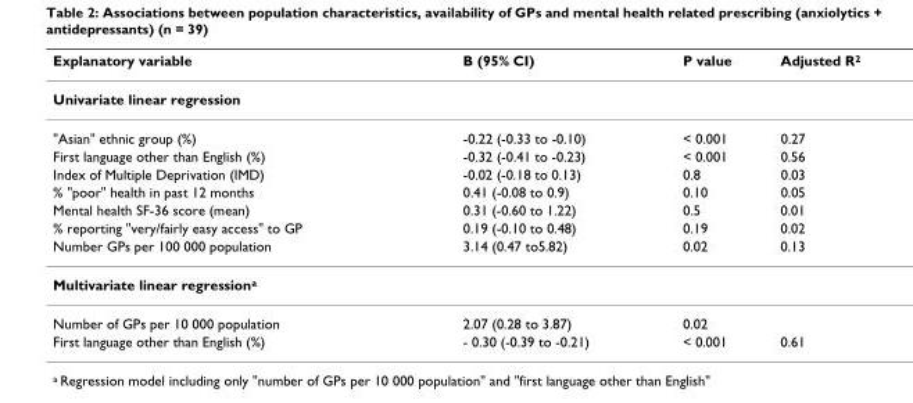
<table><thead><tr><td>Explanatory variable</td><td>B (95% CI)</td><td>P value</td><td>Adjusted R<sup>2</sup></td></tr></thead><tbody><tr><td colspan="4">Univariate linear regression</td></tr><tr><td>&quot;Asian&quot; ethnic group (%)</td><td>-0.22 (-0.33 to -0.10)</td><td>&lt; 0.001</td><td>0.27</td></tr><tr><td>First language other than English (%)</td><td>-0.32 (-0.41 to -0.23)</td><td>&lt; 0.001</td><td>0.56</td></tr><tr><td>Index of Multiple Deprivation (IMD)</td><td>-0.02 (-0.18 to 0.13)</td><td>0.8</td><td>0.03</td></tr><tr><td>% &quot;poor&quot; health in past 12 months</td><td>0.41 (-0.08 to 0.9)</td><td>0.10</td><td>0.05</td></tr><tr><td>Mental health SF-36 score (mean)</td><td>0.31 (-0.60 to 1.22)</td><td>0.5</td><td>0.01</td></tr><tr><td>% reporting &quot;very/fairly easy access&quot; to GP</td><td>0.19 (-0.10 to 0.48)</td><td>0.19</td><td>0.02</td></tr><tr><td>Number GPs per 100 000 population</td><td>3.14 (0.47 to5.82)</td><td>0.02</td><td>0.13</td></tr><tr><td colspan="4">Multivariate linear regression<sup>a</sup></td></tr><tr><td>Number of GPs per 10 000 population</td><td>2.07 (0.28 to 3.87)</td><td>0.02</td><td></td></tr><tr><td>First language other than English (%)</td><td>- 0.30 (-0.39 to -0.21)</td><td>&lt; 0.001</td><td>0.61</td></tr></tbody></table>